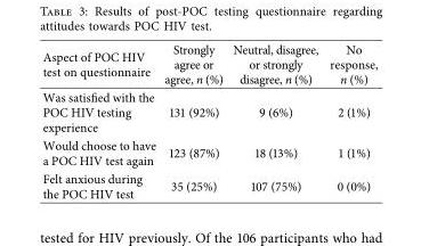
<table><thead><tr><td>Aspect of POC HIV test on questionnaire</td><td>Strongly agree or agree, n (%)</td><td>Neutral, disagree, or strongly disagree, n (%)</td><td>No response, n (%)</td></tr></thead><tbody><tr><td>Was satisfed with the POC HIV testing experience</td><td>131 (92%)</td><td>9 (6%)</td><td>2 (1%)</td></tr><tr><td>Would choose to have a POC HIV test again</td><td>123 (87%)</td><td>18 (13%)</td><td>1 (1%)</td></tr><tr><td>Felt anxious during the POC HIV test</td><td>35 (25%)</td><td>107 (75%)</td><td>0 (0%)</td></tr></tbody></table>